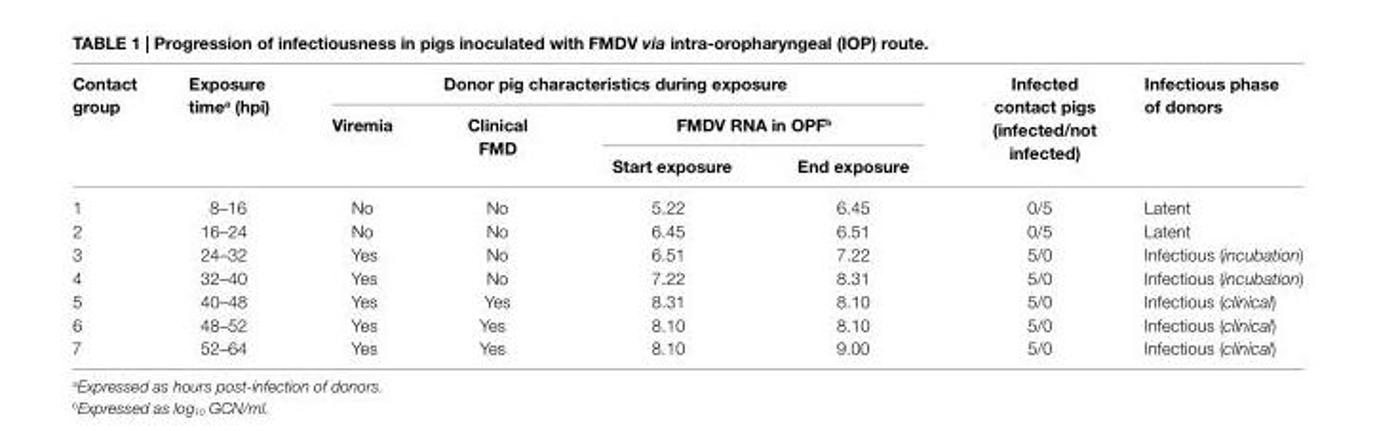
<table><thead><tr><td rowspan="3">contact group</td><td rowspan="3">exposure time<sup>a</sup> (hpi)</td><td colspan="4">Donor pig characteristics during exposure</td><td rowspan="3">infected contact pigs (infected/not infected)</td><td rowspan="3">infectious phase of donors</td></tr><tr><td rowspan="2">Viremia</td><td rowspan="2">clinical FMD</td><td colspan="2">FMDV rna in OPF<sup>b</sup></td></tr><tr><td>start exposure</td><td>end exposure</td></tr></thead><tbody><tr><td>1</td><td>8–16</td><td>No</td><td>No</td><td>5.22</td><td>6.45</td><td>0/5</td><td>Latent</td></tr><tr><td>2</td><td>16–24</td><td>No</td><td>No</td><td>6.45</td><td>6.51</td><td>0/5</td><td>Latent</td></tr><tr><td>3</td><td>24–32</td><td>Yes</td><td>No</td><td>6.51</td><td>7.22</td><td>5/0</td><td>Infectious (incubation)</td></tr><tr><td>4</td><td>32–40</td><td>Yes</td><td>No</td><td>7.22</td><td>8.31</td><td>5/0</td><td>Infectious (incubation)</td></tr><tr><td>5</td><td>40–48</td><td>Yes</td><td>Yes</td><td>8.31</td><td>8.10</td><td>5/0</td><td>Infectious (clinical)</td></tr><tr><td>6</td><td>48–52</td><td>Yes</td><td>Yes</td><td>8.10</td><td>8.10</td><td>5/0</td><td>Infectious (clinical)</td></tr><tr><td>7</td><td>52–64</td><td>Yes</td><td>Yes</td><td>8.10</td><td>9.00</td><td>5/0</td><td>Infectious (clinical)</td></tr></tbody></table>